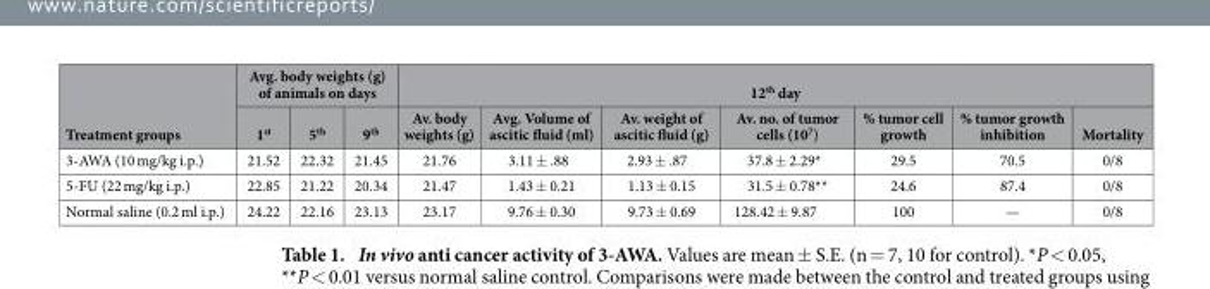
<table><thead><tr><td rowspan="2">Treatment groups</td><td colspan="3">Avg. body weights (g) of animals on days</td><td colspan="7">12<sup>th</sup> day</td></tr><tr><td>1<sup>st</sup></td><td>5<sup>th</sup></td><td>9<sup>th</sup></td><td>Av. body weights (g)</td><td>Avg. Volume of ascitic fluid (ml)</td><td>Av. weight of ascitic fluid (g)</td><td>Av. no. of tumor cells (10<sup>7</sup>)</td><td>% tumor cell growth</td><td>% tumor growth inhibition</td><td>Mortality</td></tr></thead><tbody><tr><td>3-AWA (10 mg/kg i.p.)</td><td>21.52</td><td>22.32</td><td>21.45</td><td>21.76</td><td>3.11 ± .88</td><td>2.93 ± .87</td><td>37.8 ± 2.29*</td><td>29.5</td><td>70.5</td><td>0/8</td></tr><tr><td>5-FU (22 mg/kg i.p.)</td><td>22.85</td><td>21.22</td><td>20.34</td><td>21.47</td><td>1.43 ± 0.21</td><td>1.13 ± 0.15</td><td>31.5 ± 0.78**</td><td>24.6</td><td>87.4</td><td>0/8</td></tr><tr><td>Normal saline (0.2 ml i.p.)</td><td>24.22</td><td>22.16</td><td>23.13</td><td>23.17</td><td>9.76 ± 0.30</td><td>9.73 ± 0.69</td><td>128.42 ± 9.87</td><td>100</td><td>—</td><td>0/8</td></tr></tbody></table>